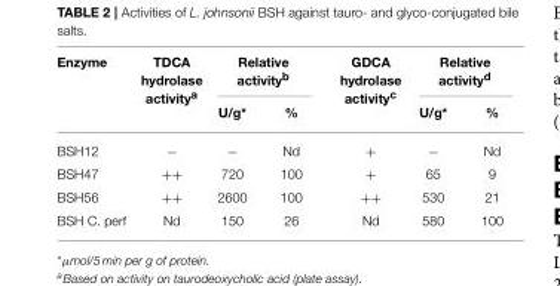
<table><thead><tr><td rowspan="2">Enzyme</td><td rowspan="2">TDCA hydrolase activity<sup>a</sup></td><td colspan="2">Relative activity<sup>b</sup></td><td rowspan="2">GDCA hydrolase activity<sup>c</sup></td><td colspan="2">Relative activity<sup>d</sup></td></tr><tr><td>U/g*</td><td>%</td><td>U/g*</td><td>%</td></tr></thead><tbody><tr><td>BSH12</td><td>−</td><td>−</td><td>Nd</td><td>+</td><td>−</td><td>Nd</td></tr><tr><td>BSH47</td><td>++</td><td>720</td><td>100</td><td>+</td><td>65</td><td>9</td></tr><tr><td>BSH56</td><td>++</td><td>2600</td><td>100</td><td>++</td><td>530</td><td>21</td></tr><tr><td>BSH C. perf</td><td>Nd</td><td>150</td><td>26</td><td>Nd</td><td>580</td><td>100</td></tr></tbody></table>